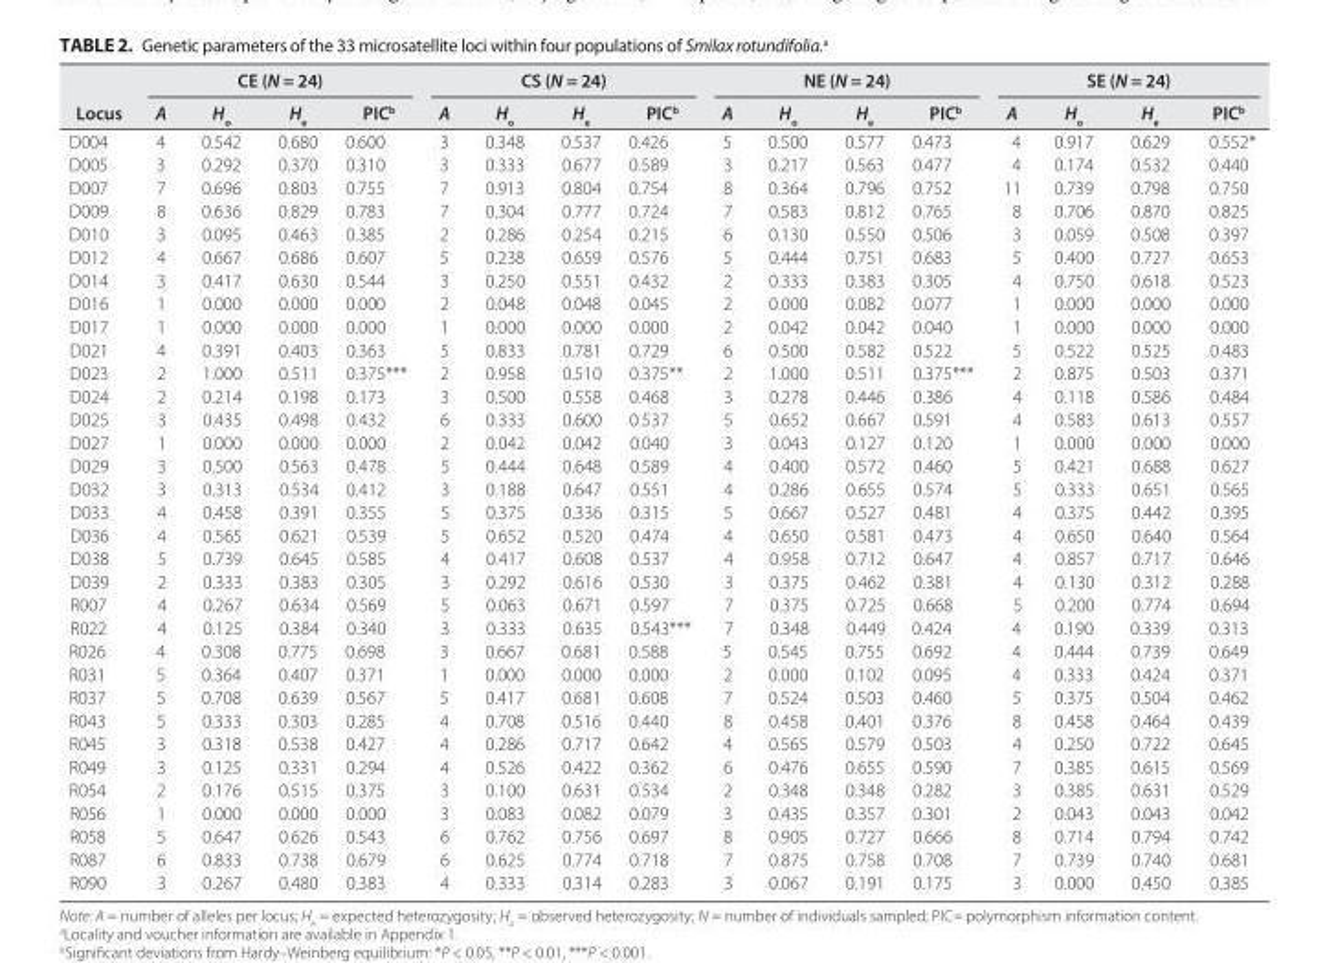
<table><thead><tr><td rowspan="2">Locus</td><td colspan="4">CE (N = 24)</td><td colspan="4">CS (N = 24)</td><td colspan="4">NE (N = 24)</td><td colspan="4">SE (N = 24)</td></tr><tr><td>A</td><td>H<sub>o</sub></td><td>H<sub>e</sub></td><td>PIC<sup>b</sup></td><td>A</td><td>H<sub>o</sub></td><td>H<sub>e</sub></td><td>PIC<sup>b</sup></td><td>A</td><td>H<sub>o</sub></td><td>H<sub>e</sub></td><td>PIC<sup>b</sup></td><td>A</td><td>H<sub>o</sub></td><td>H<sub>e</sub></td><td>PIC<sup>b</sup></td></tr></thead><tbody><tr><td>D004</td><td>4</td><td>0.542</td><td>0.680</td><td>0.600</td><td>3</td><td>0.348</td><td>0.537</td><td>0.426</td><td>5</td><td>0.500</td><td>0.577</td><td>0.473</td><td>4</td><td>0.917</td><td>0.629</td><td>0.552*</td></tr><tr><td>D005</td><td>3</td><td>0.292</td><td>0.370</td><td>0.310</td><td>3</td><td>0.333</td><td>0.677</td><td>0.589</td><td>3</td><td>0.217</td><td>0.563</td><td>0.477</td><td>4</td><td>0.174</td><td>0.532</td><td>0.440</td></tr><tr><td>D007</td><td>7</td><td>0.696</td><td>0.803</td><td>0.755</td><td>7</td><td>0.913</td><td>0.804</td><td>0.754</td><td>8</td><td>0.364</td><td>0.796</td><td>0.752</td><td>11</td><td>0.739</td><td>0.798</td><td>0.750</td></tr><tr><td>D009</td><td>8</td><td>0.636</td><td>0.829</td><td>0.783</td><td>7</td><td>0.304</td><td>0.777</td><td>0.724</td><td>7</td><td>0.583</td><td>0.812</td><td>0.765</td><td>8</td><td>0.706</td><td>0.870</td><td>0.825</td></tr><tr><td>D010</td><td>3</td><td>0.095</td><td>0.463</td><td>0.385</td><td>2</td><td>0.286</td><td>0.254</td><td>0.215</td><td>6</td><td>0.130</td><td>0.550</td><td>0.506</td><td>3</td><td>0.059</td><td>0.508</td><td>0.397</td></tr><tr><td>D012</td><td>4</td><td>0.667</td><td>0.686</td><td>0.607</td><td>5</td><td>0.238</td><td>0.659</td><td>0.576</td><td>5</td><td>0.444</td><td>0.751</td><td>0.683</td><td>5</td><td>0.400</td><td>0.727</td><td>0.653</td></tr><tr><td>D014</td><td>3</td><td>0.417</td><td>0.630</td><td>0.544</td><td>3</td><td>0.250</td><td>0.551</td><td>0.432</td><td>2</td><td>0.333</td><td>0.383</td><td>0.305</td><td>4</td><td>0.750</td><td>0.618</td><td>0.523</td></tr><tr><td>D016</td><td>1</td><td>0.000</td><td>0.000</td><td>0.000</td><td>2</td><td>0.048</td><td>0.048</td><td>0.045</td><td>2</td><td>0.000</td><td>0.082</td><td>0.077</td><td>1</td><td>0.000</td><td>0.000</td><td>0.000</td></tr><tr><td>D017</td><td>1</td><td>0.000</td><td>0.000</td><td>0.000</td><td>1</td><td>0.000</td><td>0.000</td><td>0.000</td><td>2</td><td>0.042</td><td>0.042</td><td>0.040</td><td>1</td><td>0.000</td><td>0.000</td><td>0.000</td></tr><tr><td>D021</td><td>4</td><td>0.391</td><td>0.403</td><td>0.363</td><td>5</td><td>0.833</td><td>0.781</td><td>0.729</td><td>6</td><td>0.500</td><td>0.582</td><td>0.522</td><td>5</td><td>0.522</td><td>0.525</td><td>0.483</td></tr><tr><td>D023</td><td>2</td><td>1.000</td><td>0.511</td><td>0.375***</td><td>2</td><td>0.958</td><td>0.510</td><td>0.375**</td><td>2</td><td>1.000</td><td>0.511</td><td>0.375***</td><td>2</td><td>0.875</td><td>0.503</td><td>0.371</td></tr><tr><td>D024</td><td>2</td><td>0.214</td><td>0.198</td><td>0.173</td><td>3</td><td>0.500</td><td>0.558</td><td>0.468</td><td>3</td><td>0.278</td><td>0.446</td><td>0.386</td><td>4</td><td>0.118</td><td>0.586</td><td>0.484</td></tr><tr><td>D025</td><td>3</td><td>0.435</td><td>0.498</td><td>0.432</td><td>6</td><td>0.333</td><td>0.600</td><td>0.537</td><td>5</td><td>0.652</td><td>0.667</td><td>0.591</td><td>4</td><td>0.583</td><td>0.613</td><td>0.557</td></tr><tr><td>D027</td><td>1</td><td>0.000</td><td>0.000</td><td>0.000</td><td>2</td><td>0.042</td><td>0.042</td><td>0.040</td><td>3</td><td>0.043</td><td>0.127</td><td>0.120</td><td>1</td><td>0.000</td><td>0.000</td><td>0.000</td></tr><tr><td>D029</td><td>3</td><td>0.500</td><td>0.563</td><td>0.478</td><td>5</td><td>0.444</td><td>0.648</td><td>0.589</td><td>4</td><td>0.400</td><td>0.572</td><td>0.460</td><td>5</td><td>0.421</td><td>0.688</td><td>0.627</td></tr><tr><td>D032</td><td>3</td><td>0.313</td><td>0.534</td><td>0.412</td><td>3</td><td>0.188</td><td>0.647</td><td>0.551</td><td>4</td><td>0.286</td><td>0.655</td><td>0.574</td><td>5</td><td>0.333</td><td>0.651</td><td>0.565</td></tr><tr><td>D033</td><td>4</td><td>0.458</td><td>0.391</td><td>0.355</td><td>5</td><td>0.375</td><td>0.336</td><td>0.315</td><td>5</td><td>0.667</td><td>0.527</td><td>0.481</td><td>4</td><td>0.375</td><td>0.442</td><td>0.395</td></tr><tr><td>D036</td><td>4</td><td>0.565</td><td>0.621</td><td>0.539</td><td>5</td><td>0.652</td><td>0.520</td><td>0.474</td><td>4</td><td>0.650</td><td>0.581</td><td>0.473</td><td>4</td><td>0.650</td><td>0.640</td><td>0.564</td></tr><tr><td>D038</td><td>5</td><td>0.739</td><td>0.645</td><td>0.585</td><td>4</td><td>0.417</td><td>0.608</td><td>0.537</td><td>4</td><td>0.958</td><td>0.712</td><td>0.647</td><td>4</td><td>0.857</td><td>0.717</td><td>0.646</td></tr><tr><td>D039</td><td>2</td><td>0.333</td><td>0.383</td><td>0.305</td><td>3</td><td>0.292</td><td>0.616</td><td>0.530</td><td>3</td><td>0.375</td><td>0.462</td><td>0.381</td><td>4</td><td>0.130</td><td>0.312</td><td>0.288</td></tr><tr><td>R007</td><td>4</td><td>0.267</td><td>0.634</td><td>0.569</td><td>5</td><td>0.063</td><td>0.671</td><td>0.597</td><td>7</td><td>0.375</td><td>0.725</td><td>0.668</td><td>5</td><td>0.200</td><td>0.774</td><td>0.694</td></tr><tr><td>R022</td><td>4</td><td>0.125</td><td>0.384</td><td>0.340</td><td>3</td><td>0.333</td><td>0.635</td><td>0.543***</td><td>7</td><td>0.348</td><td>0.449</td><td>0.424</td><td>4</td><td>0.190</td><td>0.339</td><td>0.313</td></tr><tr><td>R026</td><td>4</td><td>0.308</td><td>0.775</td><td>0.698</td><td>3</td><td>0.667</td><td>0.681</td><td>0.588</td><td>5</td><td>0.545</td><td>0.755</td><td>0.692</td><td>4</td><td>0.444</td><td>0.739</td><td>0.649</td></tr><tr><td>R031</td><td>5</td><td>0.364</td><td>0.407</td><td>0.371</td><td>1</td><td>0.000</td><td>0.000</td><td>0.000</td><td>2</td><td>0.000</td><td>0.102</td><td>0.095</td><td>4</td><td>0.333</td><td>0.424</td><td>0.371</td></tr><tr><td>R037</td><td>5</td><td>0.708</td><td>0.639</td><td>0.567</td><td>5</td><td>0.417</td><td>0.681</td><td>0.608</td><td>7</td><td>0.524</td><td>0.503</td><td>0.460</td><td>5</td><td>0.375</td><td>0.504</td><td>0.462</td></tr><tr><td>R043</td><td>5</td><td>0.333</td><td>0.303</td><td>0.285</td><td>4</td><td>0.708</td><td>0.516</td><td>0.440</td><td>8</td><td>0.458</td><td>0.401</td><td>0.376</td><td>8</td><td>0.458</td><td>0.464</td><td>0.439</td></tr><tr><td>R045</td><td>3</td><td>0.318</td><td>0.538</td><td>0.427</td><td>4</td><td>0.286</td><td>0.717</td><td>0.642</td><td>4</td><td>0.565</td><td>0.579</td><td>0.503</td><td>4</td><td>0.250</td><td>0.722</td><td>0.645</td></tr><tr><td>R049</td><td>3</td><td>0.125</td><td>0.331</td><td>0.294</td><td>4</td><td>0.526</td><td>0.422</td><td>0.362</td><td>6</td><td>0.476</td><td>0.655</td><td>0.590</td><td>7</td><td>0.385</td><td>0.615</td><td>0.569</td></tr><tr><td>R054</td><td>2</td><td>0.176</td><td>0.515</td><td>0.375</td><td>3</td><td>0.100</td><td>0.631</td><td>0.534</td><td>2</td><td>0.348</td><td>0.348</td><td>0.282</td><td>3</td><td>0.385</td><td>0.631</td><td>0.529</td></tr><tr><td>R056</td><td>1</td><td>0.000</td><td>0.000</td><td>0.000</td><td>3</td><td>0.083</td><td>0.082</td><td>0.079</td><td>3</td><td>0.435</td><td>0.357</td><td>0.301</td><td>2</td><td>0.043</td><td>0.043</td><td>0.042</td></tr><tr><td>R058</td><td>5</td><td>0.647</td><td>0.626</td><td>0.543</td><td>6</td><td>0.762</td><td>0.756</td><td>0.697</td><td>8</td><td>0.905</td><td>0.727</td><td>0.666</td><td>8</td><td>0.714</td><td>0.794</td><td>0.742</td></tr><tr><td>R087</td><td>6</td><td>0.833</td><td>0.738</td><td>0.679</td><td>6</td><td>0.625</td><td>0.774</td><td>0.718</td><td>7</td><td>0.875</td><td>0.758</td><td>0.708</td><td>7</td><td>0.739</td><td>0.740</td><td>0.681</td></tr><tr><td>R090</td><td>3</td><td>0.267</td><td>0.480</td><td>0.383</td><td>4</td><td>0.333</td><td>0.314</td><td>0.283</td><td>3</td><td>0.067</td><td>0.191</td><td>0.175</td><td>3</td><td>0.000</td><td>0.450</td><td>0.385</td></tr></tbody></table>